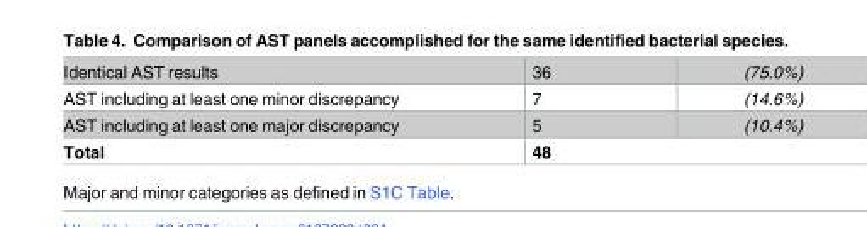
<table><tbody><tr><td>Identical AST results</td><td>36</td><td>(75.0%)</td></tr><tr><td>AST including at least one minor discrepancy</td><td>7</td><td>(14.6%)</td></tr><tr><td>AST including at least one major discrepancy</td><td>5</td><td>(10.4%)</td></tr><tr><td>Total</td><td colspan="2">48</td></tr></tbody></table>